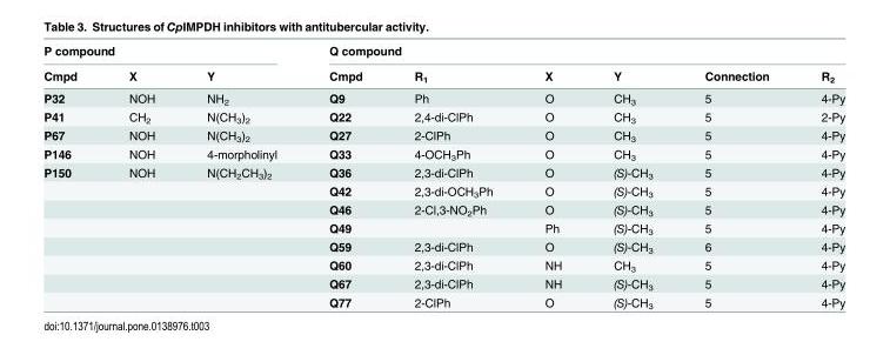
<table><thead><tr><td colspan="3">P compound</td><td colspan="6">Q compound</td></tr><tr><td>Cmpd</td><td>X</td><td>Y</td><td>Cmpd</td><td>R<sub>1</sub></td><td>X</td><td>Y</td><td>Connection</td><td>R<sub>2</sub></td></tr></thead><tbody><tr><td>P32</td><td>NOH</td><td>NH<sub>2</sub></td><td>Q9</td><td>Ph</td><td>O</td><td>CH<sub>3</sub></td><td>5</td><td>4-Py</td></tr><tr><td>P41</td><td>CH<sub>2</sub></td><td>N(CH<sub>3</sub>)<sub>2</sub></td><td>Q22</td><td>2,4-di-ClPh</td><td>O</td><td>CH<sub>3</sub></td><td>5</td><td>2-Py</td></tr><tr><td>P67</td><td>NOH</td><td>N(CH<sub>3</sub>)<sub>2</sub></td><td>Q27</td><td>2-ClPh</td><td>O</td><td>CH<sub>3</sub></td><td>5</td><td>4-Py</td></tr><tr><td>P146</td><td>NOH</td><td>4-morpholinyl</td><td>Q33</td><td>4-OCH<sub>3</sub>Ph</td><td>O</td><td>CH<sub>3</sub></td><td>5</td><td>4-Py</td></tr><tr><td rowspan="8">P150</td><td>NOH</td><td>N(CH<sub>2</sub>CH<sub>3</sub>)<sub>2</sub></td><td>Q36</td><td>2,3-di-ClPh</td><td>O</td><td>(S)-CH<sub>3</sub></td><td>5</td><td>4-Py</td></tr><tr><td colspan="2"></td><td>Q42</td><td>2,3-di-OCH<sub>3</sub>Ph</td><td>O</td><td>(S)-CH<sub>3</sub></td><td>5</td><td>4-Py</td></tr><tr><td colspan="2"></td><td>Q46</td><td>2-Cl,3-NO<sub>2</sub>Ph</td><td>O</td><td>(S)-CH<sub>3</sub></td><td>5</td><td>4-Py</td></tr><tr><td colspan="2"></td><td>Q49</td><td></td><td>Ph</td><td>(S)-CH<sub>3</sub></td><td>5</td><td>4-Py</td></tr><tr><td colspan="2"></td><td>Q59</td><td>2,3-di-ClPh</td><td>O</td><td>(S)-CH<sub>3</sub></td><td>6</td><td>4-Py</td></tr><tr><td colspan="2"></td><td>Q60</td><td>2,3-di-ClPh</td><td>NH</td><td>CH<sub>3</sub></td><td>5</td><td>4-Py</td></tr><tr><td colspan="2"></td><td>Q67</td><td>2,3-di-ClPh</td><td>NH</td><td>(S)-CH<sub>3</sub></td><td>5</td><td>4-Py</td></tr><tr><td colspan="2"></td><td>Q77</td><td>2-ClPh</td><td>O</td><td>(S)-CH<sub>3</sub></td><td>5</td><td>4-Py</td></tr></tbody></table>